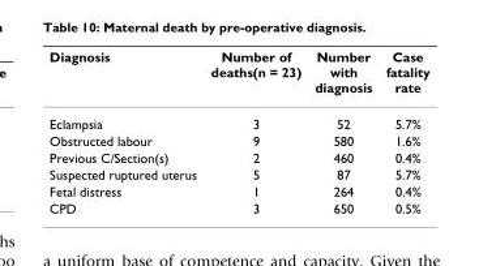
<table><thead><tr><td>Diagnosis</td><td>Number of deaths(n = 23)</td><td>Number with diagnosis</td><td>Case fatality rate</td></tr></thead><tbody><tr><td>Eclampsia</td><td>3</td><td>52</td><td>5.7%</td></tr><tr><td>Obstructed labour</td><td>9</td><td>580</td><td>1.6%</td></tr><tr><td>Previous C/Section(s)</td><td>2</td><td>460</td><td>0.4%</td></tr><tr><td>Suspected ruptured uterus</td><td>5</td><td>87</td><td>5.7%</td></tr><tr><td>Fetal distress</td><td>1</td><td>264</td><td>0.4%</td></tr><tr><td>CPD</td><td>3</td><td>650</td><td>0.5%</td></tr></tbody></table>